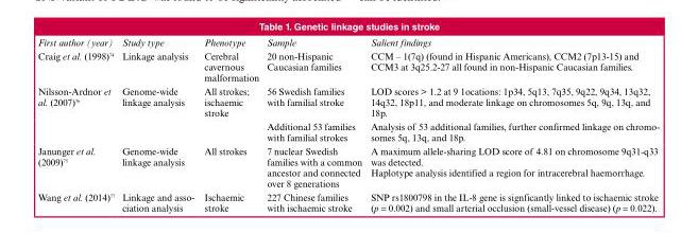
<table><thead><tr><td>First author (year)</td><td>Study type</td><td>Phenotype</td><td>Sample</td><td>Salient findings</td></tr></thead><tbody><tr><td>Craig et al. (1998)<sup>74</sup></td><td>Linkage analysis</td><td>Cerebral cavernous malformation</td><td>20 non-Hispanic Caucasian families</td><td>CCM – 1(7q) (found in Hispanic Americans), CCM2 (7p13-15) and CCM3 at 3q25.2-27 all found in non-Hispanic Caucasian families.</td></tr><tr><td rowspan="2">Nilsson-Ardnor et al. (2007)<sup>76</sup></td><td rowspan="2">Genome-wide linkage analysis</td><td rowspan="2">All strokes; ischaemic stroke</td><td>56 Swedish families with familial stroke</td><td>LOD scores &gt; 1.2 at 9 1ocations: 1p34, 5q13, 7q35, 9q22, 9q34, 13q32, 14q32, 18p11, and moderate linkage on chromosomes 5q, 9q, 13q, and 18p.</td></tr><tr><td>Additional 53 families with familial strokes</td><td>Analysis of 53 additional families, further confirmed linkage on chromo- somes 5q, 13q, and 18p.</td></tr><tr><td>Janunger et al. (2009)<sup>75</sup></td><td>Genome-wide linkage analysis</td><td>All strokes</td><td>7 nuclear Swedish families with a common ancestor and connected over 8 generations</td><td>A maximum allele-sharing LOD score of 4.81 on chromosome 9q31-q33 was detected. Haplotype analysis identified a region for intracerebral haemorrhage.</td></tr><tr><td>Wang et al. (2014)<sup>77</sup></td><td>Linkage and asso- ciation analysis</td><td>Ischaemic stroke</td><td>227 Chinese families with ischaemic stroke</td><td>SNP rs1800798 in the IL-8 gene is signficantly linked to ischaemic stroke (p = 0.002) and small arterial occlusion (small-vessel disease) (p = 0.022).</td></tr></tbody></table>